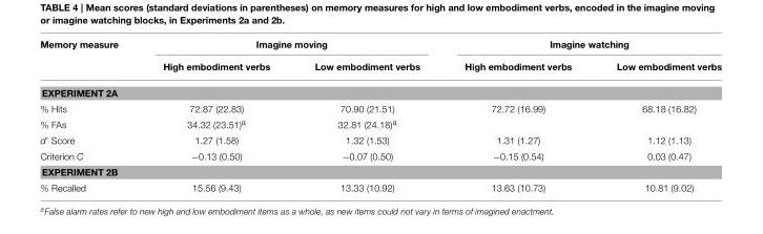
<table><thead><tr><td rowspan="2">Memory measure</td><td colspan="2">Imagine moving</td><td colspan="2">Imagine watching</td></tr><tr><td>High embodiment verbs</td><td>Low embodiment verbs</td><td>High embodiment verbs</td><td>Low embodiment verbs</td></tr></thead><tbody><tr><td colspan="5">EXPERIMENT 2A</td></tr><tr><td>% Hits</td><td>72.87 (22.83)</td><td>70.90 (21.51)</td><td>72.72 (16.99)</td><td>68.18 (16.82)</td></tr><tr><td>% FAs</td><td>34.32 (23.51)<sup>a</sup></td><td>32.81 (24.18)<sup>a</sup></td><td></td><td></td></tr><tr><td>d’ Score</td><td>1.27 (1.58)</td><td>1.32 (1.53)</td><td>1.31 (1.27)</td><td>1.12 (1.13)</td></tr><tr><td>Criterion C</td><td>−0.13 (0.50)</td><td>−0.07 (0.50)</td><td>−0.15 (0.54)</td><td>0.03 (0.47)</td></tr><tr><td colspan="5">EXPERIMENT 2B</td></tr><tr><td>% Recalled</td><td>15.56 (9.43)</td><td>13.33 (10.92)</td><td>13.63 (10.73)</td><td>10.81 (9.02)</td></tr></tbody></table>